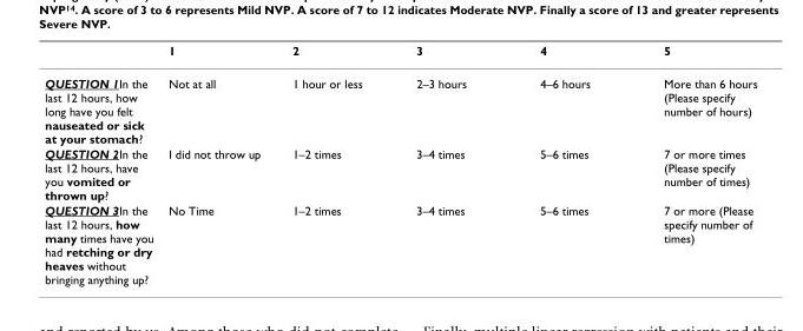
<table><thead><tr><td></td><td>1</td><td>2</td><td>3</td><td>4</td><td>5</td></tr></thead><tbody><tr><td>QUESTION 1In the last 12 hours, how long have you felt nauseated or sick at your stomach?</td><td>Not at all</td><td>1 hour or less</td><td>2–3 hours</td><td>4–6 hours</td><td>More than 6 hours (Please specify number of hours)</td></tr><tr><td>QUESTION 2In the last 12 hours, have you vomited or thrown up?</td><td>I did not throw up</td><td>1–2 times</td><td>3–4 times</td><td>5–6 times</td><td>7 or more times (Please specify number of times)</td></tr><tr><td>QUESTION 3In the last 12 hours, how many times have you had retching or dry heaves without bringing anything up?</td><td>No Time</td><td>1–2 times</td><td>3–4 times</td><td>5–6 times</td><td>7 or more (Please specify number of times)</td></tr></tbody></table>